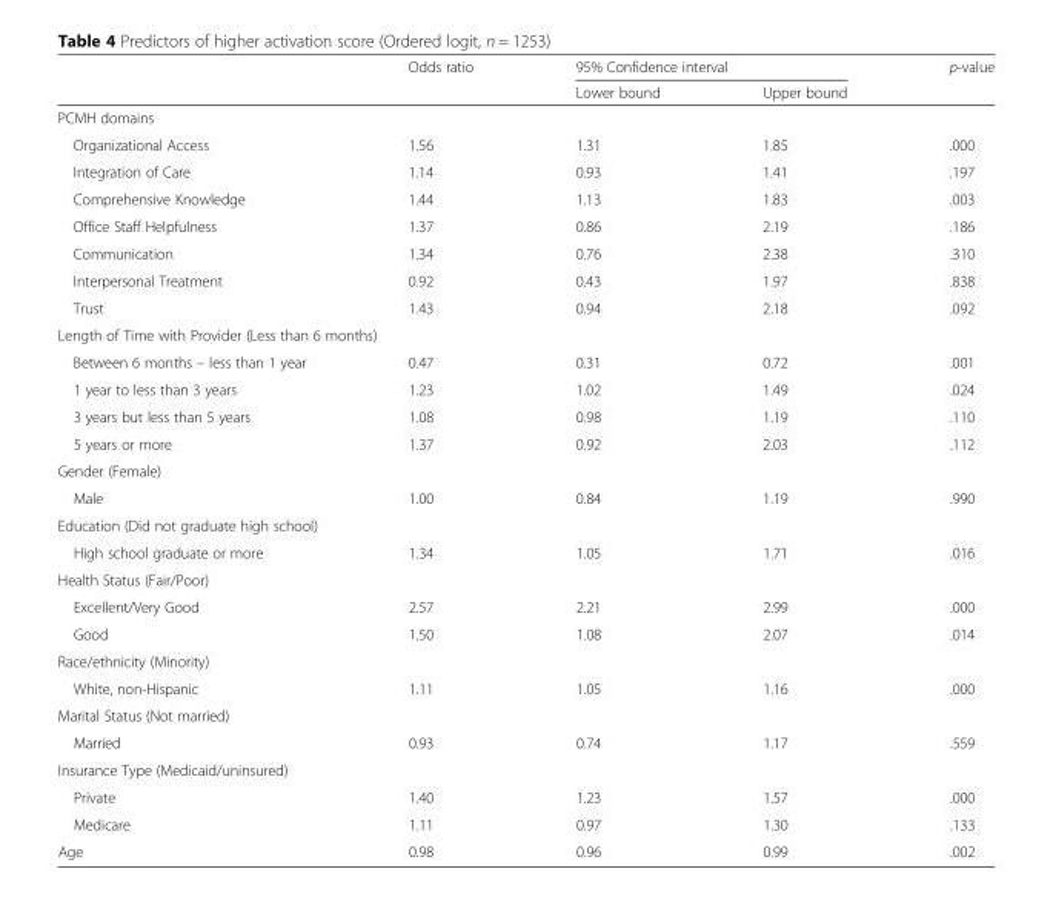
<table><thead><tr><td rowspan="2"></td><td rowspan="2">Odds ratio</td><td colspan="2">95% Confidence interval</td><td rowspan="2">p-value</td></tr><tr><td>Lower bound</td><td>Upper bound</td></tr></thead><tbody><tr><td colspan="5">PCMH domains</td></tr><tr><td>Organizational Access</td><td>1.56</td><td>1.31</td><td>1.85</td><td>.000</td></tr><tr><td>Integration of Care</td><td>1.14</td><td>0.93</td><td>1.41</td><td>.197</td></tr><tr><td>Comprehensive Knowledge</td><td>1.44</td><td>1.13</td><td>1.83</td><td>.003</td></tr><tr><td>Office Staff Helpfulness</td><td>1.37</td><td>0.86</td><td>2.19</td><td>.186</td></tr><tr><td>Communication</td><td>1.34</td><td>0.76</td><td>2.38</td><td>.310</td></tr><tr><td>Interpersonal Treatment</td><td>0.92</td><td>0.43</td><td>1.97</td><td>.838</td></tr><tr><td>Trust</td><td>1.43</td><td>0.94</td><td>2.18</td><td>.092</td></tr><tr><td colspan="5">Length of Time with Provider (Less than 6 months)</td></tr><tr><td>Between 6 months – less than 1 year</td><td>0.47</td><td>0.31</td><td>0.72</td><td>.001</td></tr><tr><td>1 year to less than 3 years</td><td>1.23</td><td>1.02</td><td>1.49</td><td>.024</td></tr><tr><td>3 years but less than 5 years</td><td>1.08</td><td>0.98</td><td>1.19</td><td>.110</td></tr><tr><td>5 years or more</td><td>1.37</td><td>0.92</td><td>2.03</td><td>.112</td></tr><tr><td colspan="5">Gender (Female)</td></tr><tr><td>Male</td><td>1.00</td><td>0.84</td><td>1.19</td><td>.990</td></tr><tr><td colspan="5">Education (Did not graduate high school)</td></tr><tr><td>High school graduate or more</td><td>1.34</td><td>1.05</td><td>1.71</td><td>.016</td></tr><tr><td colspan="5">Health Status (Fair/Poor)</td></tr><tr><td>Excellent/Very Good</td><td>2.57</td><td>2.21</td><td>2.99</td><td>.000</td></tr><tr><td>Good</td><td>1.50</td><td>1.08</td><td>2.07</td><td>.014</td></tr><tr><td colspan="5">Race/ethnicity (Minority)</td></tr><tr><td>White, non-Hispanic</td><td>1.11</td><td>1.05</td><td>1.16</td><td>.000</td></tr><tr><td colspan="5">Marital Status (Not married)</td></tr><tr><td>Married</td><td>0.93</td><td>0.74</td><td>1.17</td><td>.559</td></tr><tr><td colspan="5">Insurance Type (Medicaid/uninsured)</td></tr><tr><td>Private</td><td>1.40</td><td>1.23</td><td>1.57</td><td>.000</td></tr><tr><td>Medicare</td><td>1.11</td><td>0.97</td><td>1.30</td><td>.133</td></tr><tr><td>Age</td><td>0.98</td><td>0.96</td><td>0.99</td><td>.002</td></tr></tbody></table>